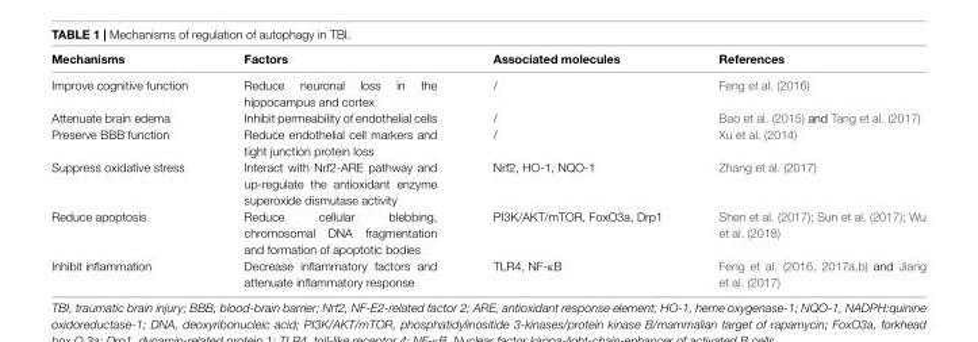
<table><thead><tr><td>Mechanisms</td><td>Factors</td><td>Associated molecules</td><td>References</td></tr></thead><tbody><tr><td>Improve cognitive function</td><td>Reduce neuronal loss in the hippocampus and cortex</td><td>/</td><td>Feng et al. (2016)</td></tr><tr><td>Attenuate brain edema</td><td>Inhibit permeability of endothelial cells</td><td>/</td><td>Bao et al. (2015) and Tang et al. (2017)</td></tr><tr><td>Preserve BBB function</td><td>Reduce endothelial cell markers and tight junction protein loss</td><td>/</td><td>Xu et al. (2014)</td></tr><tr><td>Suppress oxidative stress</td><td>Interact with Nrf2-ARE pathway and up-regulate the antioxidant enzyme superoxide dismutase activity</td><td>Nrf2, HO-1, NQO-1</td><td>Zhang et al. (2017)</td></tr><tr><td>Reduce apoptosis</td><td>Reduce cellular blebbing, chromosomal DNA fragmentation and formation of apoptotic bodies</td><td>PI3K/AKT/mTOR, FoxO3a, Drp1</td><td>Shen et al. (2017); Sun et al. (2017); Wu et al. (2018)</td></tr><tr><td>Inhibit inflammation</td><td>Decrease inflammatory factors and attenuate inflammatory response</td><td>TLR4, NF-κB</td><td>Feng et al. (2016, 2017a,b) and Jiang et al. (2017)</td></tr></tbody></table>